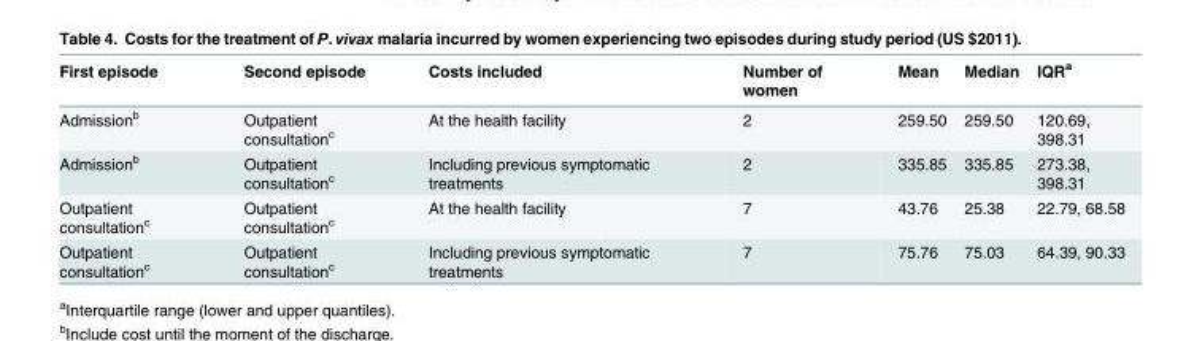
<table><thead><tr><td>First episode</td><td>Second episode</td><td>Costs included</td><td>Number of women</td><td>Mean</td><td>Median</td><td>IQR<sup>a</sup></td></tr></thead><tbody><tr><td>Admission<sup>b</sup></td><td>Outpatient consultation<sup>c</sup></td><td>At the health facility</td><td>2</td><td>259.50</td><td>259.50</td><td>120.69, 398.31</td></tr><tr><td>Admission<sup>b</sup></td><td>Outpatient consultation<sup>c</sup></td><td>Including previous symptomatic treatments</td><td>2</td><td>335.85</td><td>335.85</td><td>273.38, 398.31</td></tr><tr><td>Outpatient consultation<sup>c</sup></td><td>Outpatient consultation<sup>c</sup></td><td>At the health facility</td><td>7</td><td>43.76</td><td>25.38</td><td>22.79, 68.58</td></tr><tr><td>Outpatient consultation<sup>c</sup></td><td>Outpatient consultation<sup>c</sup></td><td>Including previous symptomatic treatments</td><td>7</td><td>75.76</td><td>75.03</td><td>64.39, 90.33</td></tr></tbody></table>